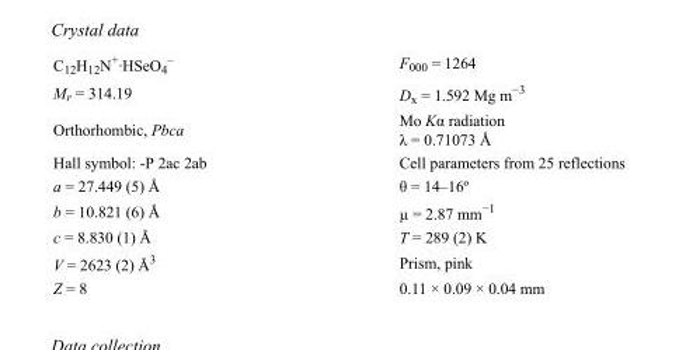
<table><tbody><tr><td>C<sub>12</sub>H<sub>12</sub>N<sup>+</sup>·HSeO<sub>4</sub> <sup>–</sup></td><td>F000 = 1264</td></tr><tr><td>M<sub>r</sub> = 314.19</td><td>D<sub>x</sub> = 1.592 Mg m<sup>−3</sup></td></tr><tr><td>Orthorhombic, Pbca</td><td>Mo Kα radiation λ = 0.71073 Å</td></tr><tr><td>Hall symbol: -P 2ac 2ab</td><td>Cell parameters from 25 reflections</td></tr><tr><td>a = 27.449 (5) Å</td><td>θ = 14–16º</td></tr><tr><td>b = 10.821 (6) Å</td><td>µ = 2.87 mm<sup>−1</sup></td></tr><tr><td>c = 8.830 (1) Å</td><td>T = 289 (2) K</td></tr><tr><td>V = 2623 (2) Å<sup>3</sup></td><td>Prism, pink</td></tr><tr><td>Z = 8</td><td>0.11 × 0.09 × 0.04 mm</td></tr></tbody></table>